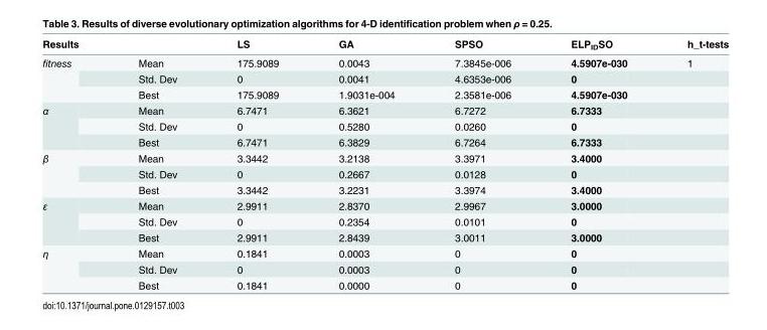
<table><thead><tr><td>Results</td><td></td><td>LS</td><td>GA</td><td>SPSO</td><td>ELP<sub>ID</sub>SO</td><td>h_t-tests</td></tr></thead><tbody><tr><td rowspan="3">fitness</td><td>Mean</td><td>175.9089</td><td>0.0043</td><td>7.3845e-006</td><td>4.5907e-030</td><td>1</td></tr><tr><td>Std. Dev</td><td>0</td><td>0.0041</td><td>4.6353e-006</td><td>0</td><td></td></tr><tr><td>Best</td><td>175.9089</td><td>1.9031e-004</td><td>2.3581e-006</td><td>4.5907e-030</td><td></td></tr><tr><td rowspan="3">α</td><td>Mean</td><td>6.7471</td><td>6.3621</td><td>6.7272</td><td>6.7333</td><td></td></tr><tr><td>Std. Dev</td><td>0</td><td>0.5280</td><td>0.0260</td><td>0</td><td></td></tr><tr><td>Best</td><td>6.7471</td><td>6.3829</td><td>6.7264</td><td>6.7333</td><td></td></tr><tr><td rowspan="3">β</td><td>Mean</td><td>3.3442</td><td>3.2138</td><td>3.3971</td><td>3.4000</td><td></td></tr><tr><td>Std. Dev</td><td>0</td><td>0.2667</td><td>0.0128</td><td>0</td><td></td></tr><tr><td>Best</td><td>3.3442</td><td>3.2231</td><td>3.3974</td><td>3.4000</td><td></td></tr><tr><td rowspan="3">ε</td><td>Mean</td><td>2.9911</td><td>2.8370</td><td>2.9967</td><td>3.0000</td><td></td></tr><tr><td>Std. Dev</td><td>0</td><td>0.2354</td><td>0.0101</td><td>0</td><td></td></tr><tr><td>Best</td><td>2.9911</td><td>2.8439</td><td>3.0011</td><td>3.0000</td><td></td></tr><tr><td rowspan="3">η</td><td>Mean</td><td>0.1841</td><td>0.0003</td><td>0</td><td>0</td><td></td></tr><tr><td>Std. Dev</td><td>0</td><td>0.0003</td><td>0</td><td>0</td><td></td></tr><tr><td>Best</td><td>0.1841</td><td>0.0000</td><td>0</td><td>0</td><td></td></tr></tbody></table>